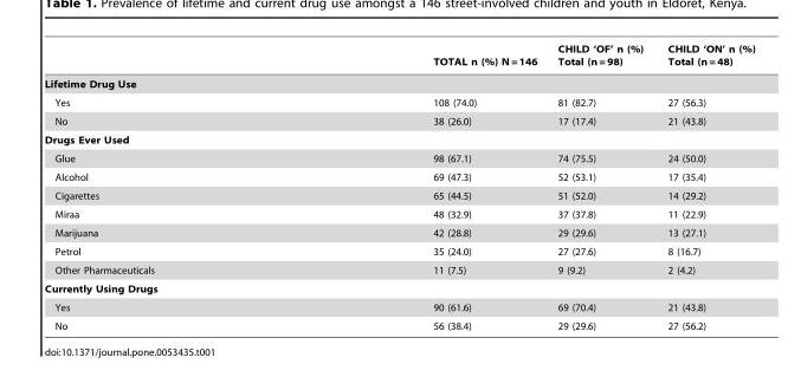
<table><thead><tr><td></td><td>TOTAL n (%) N = 146</td><td>CHILD ‘OF’ n (%) Total (n = 98)</td><td>CHILD ‘ON’ n (%) Total (n = 48)</td></tr></thead><tbody><tr><td colspan="4">Lifetime Drug Use</td></tr><tr><td>Yes</td><td>108 (74.0)</td><td>81 (82.7)</td><td>27 (56.3)</td></tr><tr><td>No</td><td>38 (26.0)</td><td>17 (17.4)</td><td>21 (43.8)</td></tr><tr><td colspan="4">Drugs Ever Used</td></tr><tr><td>Glue</td><td>98 (67.1)</td><td>74 (75.5)</td><td>24 (50.0)</td></tr><tr><td>Alcohol</td><td>69 (47.3)</td><td>52 (53.1)</td><td>17 (35.4)</td></tr><tr><td>Cigarettes</td><td>65 (44.5)</td><td>51 (52.0)</td><td>14 (29.2)</td></tr><tr><td>Miraa</td><td>48 (32.9)</td><td>37 (37.8)</td><td>11 (22.9)</td></tr><tr><td>Marijuana</td><td>42 (28.8)</td><td>29 (29.6)</td><td>13 (27.1)</td></tr><tr><td>Petrol</td><td>35 (24.0)</td><td>27 (27.6)</td><td>8 (16.7)</td></tr><tr><td>Other Pharmaceuticals</td><td>11 (7.5)</td><td>9 (9.2)</td><td>2 (4.2)</td></tr><tr><td colspan="4">Currently Using Drugs</td></tr><tr><td>Yes</td><td>90 (61.6)</td><td>69 (70.4)</td><td>21 (43.8)</td></tr><tr><td>No</td><td>56 (38.4)</td><td>29 (29.6)</td><td>27 (56.2)</td></tr></tbody></table>